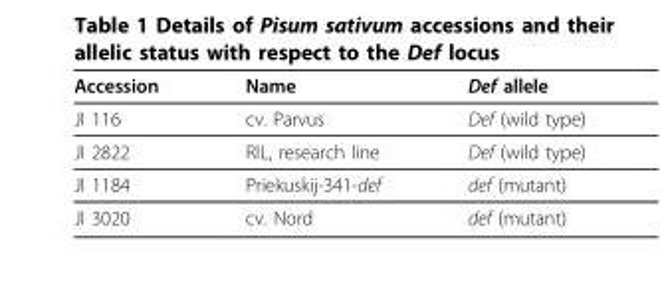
<table><thead><tr><td>Accession</td><td>Name</td><td>Def allele</td></tr></thead><tbody><tr><td>JI 116</td><td>cv. Parvus</td><td>Def (wild type)</td></tr><tr><td>JI 2822</td><td>RIL, research line</td><td>Def (wild type)</td></tr><tr><td>JI 1184</td><td>Priekuskij-341-def</td><td>def (mutant)</td></tr><tr><td>JI 3020</td><td>cv. Nord</td><td>def (mutant)</td></tr></tbody></table>